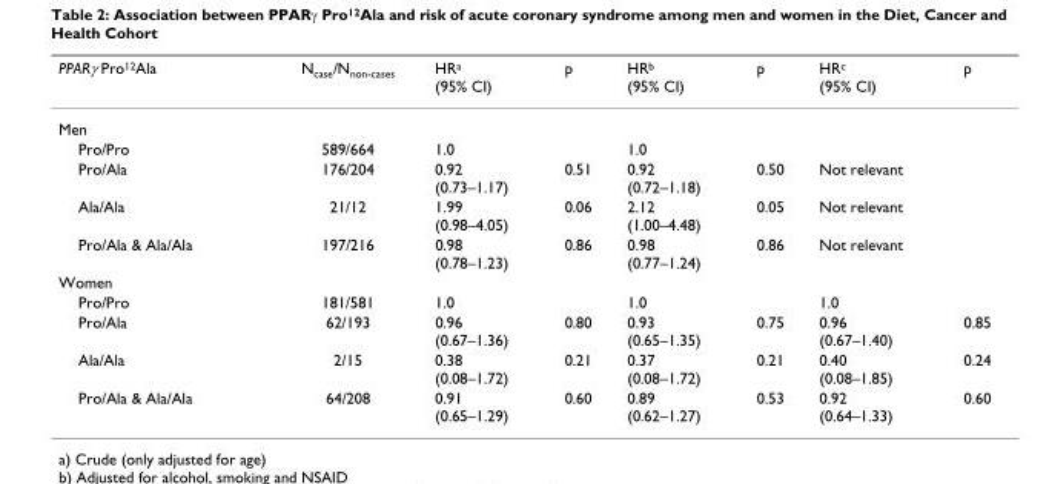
<table><thead><tr><td>PPARγ Pro<sup>12</sup>Ala</td><td>N<sub>case</sub>/N<sub>non-cases</sub></td><td>HR<sup>a</sup> (95% CI)</td><td>p</td><td>HR<sup>b</sup> (95% CI)</td><td>p</td><td>HR<sup>c</sup> (95% CI)</td><td>p</td></tr></thead><tbody><tr><td colspan="8">Men</td></tr><tr><td>Pro/Pro</td><td>589/664</td><td>1.0</td><td></td><td>1.0</td><td></td><td></td><td></td></tr><tr><td>Pro/Ala</td><td>176/204</td><td>0.92 (0.73–1.17)</td><td>0.51</td><td>0.92 (0.72–1.18)</td><td>0.50</td><td>Not relevant</td><td></td></tr><tr><td>Ala/Ala</td><td>21/12</td><td>1.99 (0.98–4.05)</td><td>0.06</td><td>2.12 (1.00–4.48)</td><td>0.05</td><td>Not relevant</td><td></td></tr><tr><td>Pro/Ala &amp; Ala/Ala</td><td>197/216</td><td>0.98 (0.78–1.23)</td><td>0.86</td><td>0.98 (0.77–1.24)</td><td>0.86</td><td>Not relevant</td><td></td></tr><tr><td colspan="8">Women</td></tr><tr><td>Pro/Pro</td><td>181/581</td><td>1.0</td><td></td><td>1.0</td><td></td><td>1.0</td><td></td></tr><tr><td>Pro/Ala</td><td>62/193</td><td>0.96 (0.67–1.36)</td><td>0.80</td><td>0.93 (0.65–1.35)</td><td>0.75</td><td>0.96 (0.67–1.40)</td><td>0.85</td></tr><tr><td>Ala/Ala</td><td>2/15</td><td>0.38 (0.08–1.72)</td><td>0.21</td><td>0.37 (0.08–1.72)</td><td>0.21</td><td>0.40 (0.08–1.85)</td><td>0.24</td></tr><tr><td>Pro/Ala &amp; Ala/Ala</td><td>64/208</td><td>0.91 (0.65–1.29)</td><td>0.60</td><td>0.89 (0.62–1.27)</td><td>0.53</td><td>0.92 (0.64–1.33)</td><td>0.60</td></tr></tbody></table>